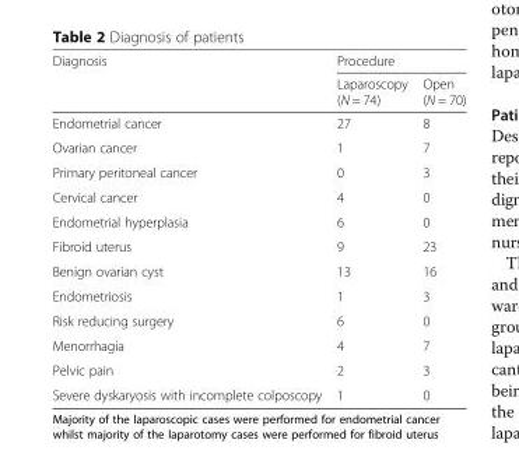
<table><thead><tr><td rowspan="2">Diagnosis</td><td colspan="2">Procedure</td></tr><tr><td>Laparoscopy (N = 74)</td><td>Open (N = 70)</td></tr></thead><tbody><tr><td>Endometrial cancer</td><td>27</td><td>8</td></tr><tr><td>Ovarian cancer</td><td>1</td><td>7</td></tr><tr><td>Primary peritoneal cancer</td><td>0</td><td>3</td></tr><tr><td>Cervical cancer</td><td>4</td><td>0</td></tr><tr><td>Endometrial hyperplasia</td><td>6</td><td>0</td></tr><tr><td>Fibroid uterus</td><td>9</td><td>23</td></tr><tr><td>Benign ovarian cyst</td><td>13</td><td>16</td></tr><tr><td>Endometriosis</td><td>1</td><td>3</td></tr><tr><td>Risk reducing surgery</td><td>6</td><td>0</td></tr><tr><td>Menorrhagia</td><td>4</td><td>7</td></tr><tr><td>Pelvic pain</td><td>2</td><td>3</td></tr><tr><td>Severe dyskaryosis with incomplete colposcopy</td><td>1</td><td>0</td></tr></tbody></table>